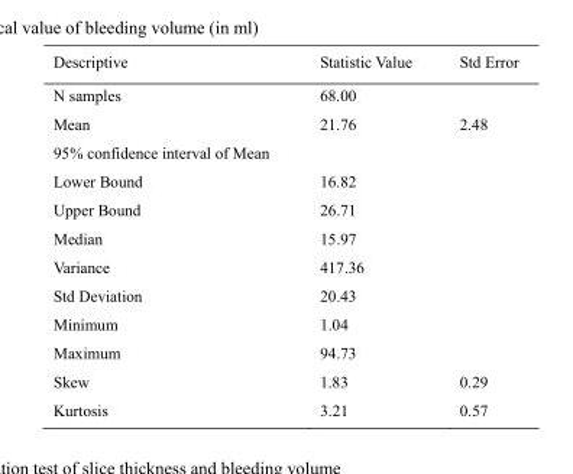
<table><thead><tr><td>Descriptive</td><td>Statistic Value</td><td>Std Error</td></tr></thead><tbody><tr><td>N samples</td><td>68.00</td><td></td></tr><tr><td>Mean</td><td>21.76</td><td>2.48</td></tr><tr><td colspan="3">95% confidence interval of Mean</td></tr><tr><td>Lower Bound</td><td>16.82</td><td></td></tr><tr><td>Upper Bound</td><td>26.71</td><td></td></tr><tr><td>Median</td><td>15.97</td><td></td></tr><tr><td>Variance</td><td>417.36</td><td></td></tr><tr><td>Std Deviation</td><td>20.43</td><td></td></tr><tr><td>Minimum</td><td>1.04</td><td></td></tr><tr><td>Maximum</td><td>94.73</td><td></td></tr><tr><td>Skew</td><td>1.83</td><td>0.29</td></tr><tr><td>Kurtosis</td><td>3.21</td><td>0.57</td></tr></tbody></table>